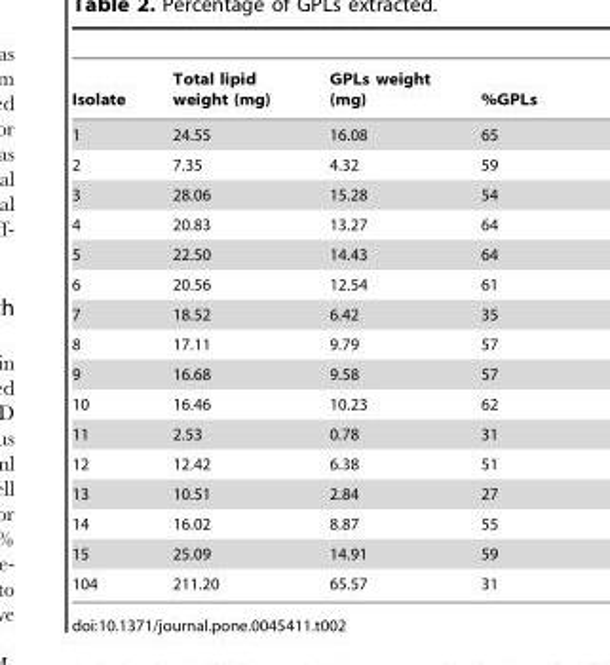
<table><thead><tr><td>Isolate</td><td>Total lipid weight (mg)</td><td>GPLs weight (mg)</td><td>%GPLs</td></tr></thead><tbody><tr><td>1</td><td>24.55</td><td>16.08</td><td>65</td></tr><tr><td>2</td><td>7.35</td><td>4.32</td><td>59</td></tr><tr><td>3</td><td>28.06</td><td>15.28</td><td>54</td></tr><tr><td>4</td><td>20.83</td><td>13.27</td><td>64</td></tr><tr><td>5</td><td>22.50</td><td>14.43</td><td>64</td></tr><tr><td>6</td><td>20.56</td><td>12.54</td><td>61</td></tr><tr><td>7</td><td>18.52</td><td>6.42</td><td>35</td></tr><tr><td>8</td><td>17.11</td><td>9.79</td><td>57</td></tr><tr><td>9</td><td>16.68</td><td>9.58</td><td>57</td></tr><tr><td>10</td><td>16.46</td><td>10.23</td><td>62</td></tr><tr><td>11</td><td>2.53</td><td>0.78</td><td>31</td></tr><tr><td>12</td><td>12.42</td><td>6.38</td><td>51</td></tr><tr><td>13</td><td>10.51</td><td>2.84</td><td>27</td></tr><tr><td>14</td><td>16.02</td><td>8.87</td><td>55</td></tr><tr><td>15</td><td>25.09</td><td>14.91</td><td>59</td></tr><tr><td>104</td><td>211.20</td><td>65.57</td><td>31</td></tr></tbody></table>